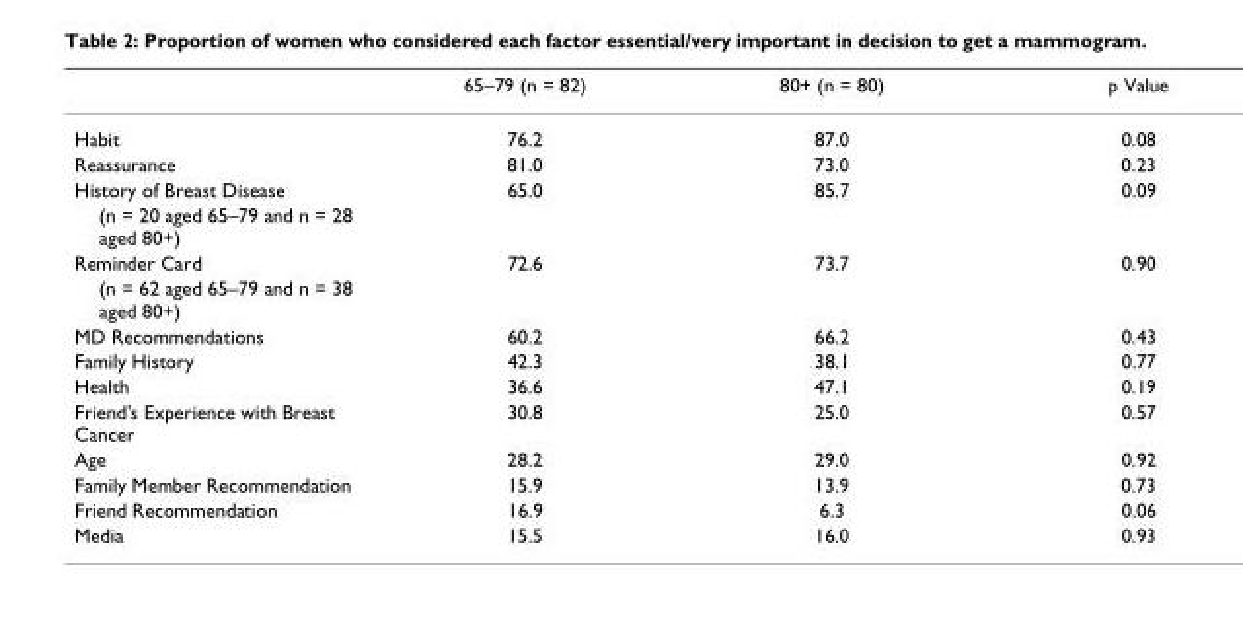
<table><thead><tr><td></td><td>65–79 (n = 82)</td><td>80+ (n = 80)</td><td>p Value</td></tr></thead><tbody><tr><td>Habit</td><td>76.2</td><td>87.0</td><td>0.08</td></tr><tr><td>Reassurance</td><td>81.0</td><td>73.0</td><td>0.23</td></tr><tr><td>History of Breast Disease</td><td>65.0</td><td>85.7</td><td>0.09</td></tr><tr><td colspan="4">(n = 20 aged 65–79 and n = 28 aged 80+)</td></tr><tr><td>Reminder Card</td><td>72.6</td><td>73.7</td><td>0.90</td></tr><tr><td colspan="4">(n = 62 aged 65–79 and n = 38 aged 80+)</td></tr><tr><td>MD Recommendations</td><td>60.2</td><td>66.2</td><td>0.43</td></tr><tr><td>Family History</td><td>42.3</td><td>38.1</td><td>0.77</td></tr><tr><td>Health</td><td>36.6</td><td>47.1</td><td>0.19</td></tr><tr><td>Friend&#x27;s Experience with Breast Cancer</td><td>30.8</td><td>25.0</td><td>0.57</td></tr><tr><td>Age</td><td>28.2</td><td>29.0</td><td>0.92</td></tr><tr><td>Family Member Recommendation</td><td>15.9</td><td>13.9</td><td>0.73</td></tr><tr><td>Friend Recommendation</td><td>16.9</td><td>6.3</td><td>0.06</td></tr><tr><td>Media</td><td>15.5</td><td>16.0</td><td>0.93</td></tr></tbody></table>